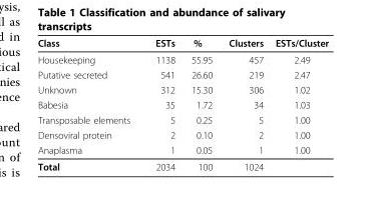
<table><thead><tr><td>Class</td><td>ESTs</td><td>%</td><td>Clusters</td><td>ESTs/Cluster</td></tr></thead><tbody><tr><td>Housekeeping</td><td>1138</td><td>55.95</td><td>457</td><td>2.49</td></tr><tr><td>Putative secreted</td><td>541</td><td>26.60</td><td>219</td><td>2.47</td></tr><tr><td>Unknown</td><td>312</td><td>15.30</td><td>306</td><td>1.02</td></tr><tr><td>Babesia</td><td>35</td><td>1.72</td><td>34</td><td>1.03</td></tr><tr><td>Transposable elements</td><td>5</td><td>0.25</td><td>5</td><td>1.00</td></tr><tr><td>Densoviral protein</td><td>2</td><td>0.10</td><td>2</td><td>1.00</td></tr><tr><td>Anaplasma</td><td>1</td><td>0.05</td><td>1</td><td>1.00</td></tr><tr><td>Total</td><td>2034</td><td>100</td><td>1024</td><td></td></tr></tbody></table>